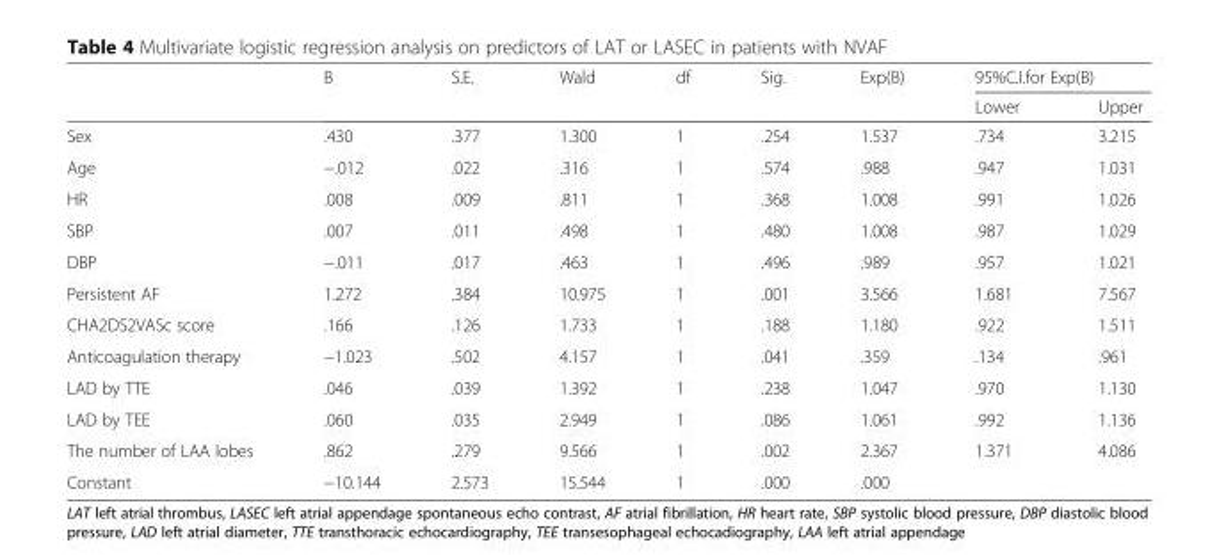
<table><thead><tr><td rowspan="2"></td><td rowspan="2">B</td><td rowspan="2">S.E.</td><td rowspan="2">Wald</td><td rowspan="2">df</td><td rowspan="2">Sig.</td><td rowspan="2">Exp(B)</td><td colspan="2">95%C.I.for Exp(B)</td></tr><tr><td>Lower</td><td>Upper</td></tr></thead><tbody><tr><td>Sex</td><td>.430</td><td>.377</td><td>1.300</td><td>1</td><td>.254</td><td>1.537</td><td>.734</td><td>3.215</td></tr><tr><td>Age</td><td>−.012</td><td>.022</td><td>.316</td><td>1</td><td>.574</td><td>.988</td><td>.947</td><td>1.031</td></tr><tr><td>HR</td><td>.008</td><td>.009</td><td>.811</td><td>1</td><td>.368</td><td>1.008</td><td>.991</td><td>1.026</td></tr><tr><td>SBP</td><td>.007</td><td>.011</td><td>.498</td><td>1</td><td>.480</td><td>1.008</td><td>.987</td><td>1.029</td></tr><tr><td>DBP</td><td>−.011</td><td>.017</td><td>.463</td><td>1</td><td>.496</td><td>.989</td><td>.957</td><td>1.021</td></tr><tr><td>Persistent AF</td><td>1.272</td><td>.384</td><td>10.975</td><td>1</td><td>.001</td><td>3.566</td><td>1.681</td><td>7.567</td></tr><tr><td>CHA2DS2VASc score</td><td>.166</td><td>.126</td><td>1.733</td><td>1</td><td>.188</td><td>1.180</td><td>.922</td><td>1.511</td></tr><tr><td>Anticoagulation therapy</td><td>−1.023</td><td>.502</td><td>4.157</td><td>1</td><td>.041</td><td>.359</td><td>.134</td><td>.961</td></tr><tr><td>LAD by TTE</td><td>.046</td><td>.039</td><td>1.392</td><td>1</td><td>.238</td><td>1.047</td><td>.970</td><td>1.130</td></tr><tr><td>LAD by TEE</td><td>.060</td><td>.035</td><td>2.949</td><td>1</td><td>.086</td><td>1.061</td><td>.992</td><td>1.136</td></tr><tr><td>The number of LAA lobes</td><td>.862</td><td>.279</td><td>9.566</td><td>1</td><td>.002</td><td>2.367</td><td>1.371</td><td>4.086</td></tr><tr><td>Constant</td><td>−10.144</td><td>2.573</td><td>15.544</td><td>1</td><td>.000</td><td>.000</td><td colspan="2"></td></tr></tbody></table>